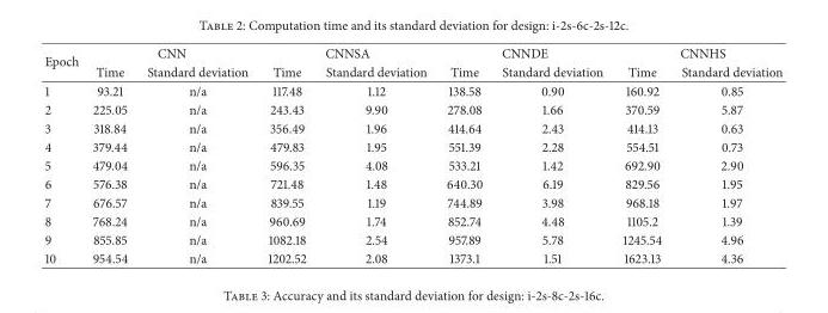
<table><thead><tr><td rowspan="2">Epoch</td><td colspan="2">CNN</td><td colspan="2">CNNSA</td><td colspan="2">CNNDE</td><td colspan="2">CNNHS</td></tr><tr><td>Time</td><td>Standard deviation</td><td>Time</td><td>Standard deviation</td><td>Time</td><td>Standard deviation</td><td>Time</td><td>Standard deviation</td></tr></thead><tbody><tr><td>1</td><td>93.21</td><td>n/a</td><td>117.48</td><td>1.12</td><td>138.58</td><td>0.90</td><td>160.92</td><td>0.85</td></tr><tr><td>2</td><td>225.05</td><td>n/a</td><td>243.43</td><td>9.90</td><td>278.08</td><td>1.66</td><td>370.59</td><td>5.87</td></tr><tr><td>3</td><td>318.84</td><td>n/a</td><td>356.49</td><td>1.96</td><td>414.64</td><td>2.43</td><td>414.13</td><td>0.63</td></tr><tr><td>4</td><td>379.44</td><td>n/a</td><td>479.83</td><td>1.95</td><td>551.39</td><td>2.28</td><td>554.51</td><td>0.73</td></tr><tr><td>5</td><td>479.04</td><td>n/a</td><td>596.35</td><td>4.08</td><td>533.21</td><td>1.42</td><td>692.90</td><td>2.90</td></tr><tr><td>6</td><td>576.38</td><td>n/a</td><td>721.48</td><td>1.48</td><td>640.30</td><td>6.19</td><td>829.56</td><td>1.95</td></tr><tr><td>7</td><td>676.57</td><td>n/a</td><td>839.55</td><td>1.19</td><td>744.89</td><td>3.98</td><td>968.18</td><td>1.97</td></tr><tr><td>8</td><td>768.24</td><td>n/a</td><td>960.69</td><td>1.74</td><td>852.74</td><td>4.48</td><td>1105.2</td><td>1.39</td></tr><tr><td>9</td><td>855.85</td><td>n/a</td><td>1082.18</td><td>2.54</td><td>957.89</td><td>5.78</td><td>1245.54</td><td>4.96</td></tr><tr><td>10</td><td>954.54</td><td>n/a</td><td>1202.52</td><td>2.08</td><td>1373.1</td><td>1.51</td><td>1623.13</td><td>4.36</td></tr></tbody></table>